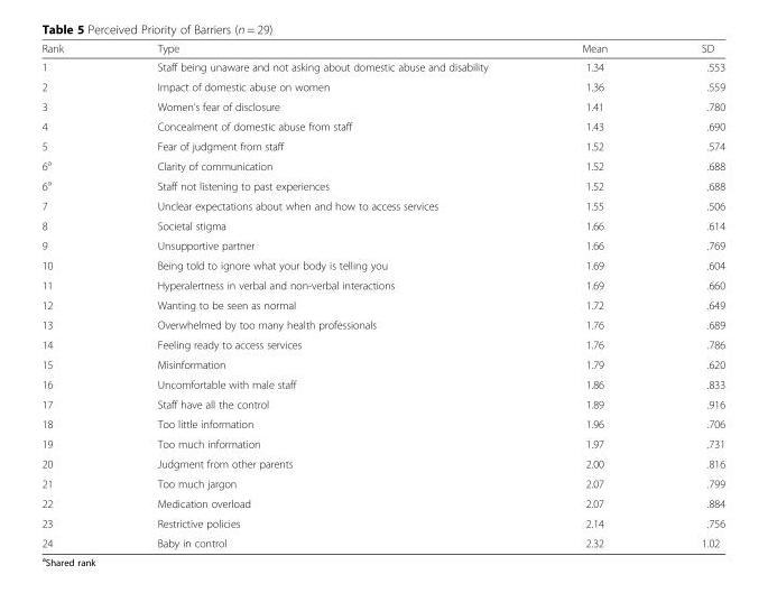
<table><thead><tr><td>Rank</td><td>Type</td><td>Mean</td><td>SD</td></tr></thead><tbody><tr><td>1</td><td>Staff being unaware and not asking about domestic abuse and disability</td><td>1.34</td><td>.553</td></tr><tr><td>2</td><td>Impact of domestic abuse on women</td><td>1.36</td><td>.559</td></tr><tr><td>3</td><td>Women’s fear of disclosure</td><td>1.41</td><td>.780</td></tr><tr><td>4</td><td>Concealment of domestic abuse from staff</td><td>1.43</td><td>.690</td></tr><tr><td>5</td><td>Fear of judgment from staff</td><td>1.52</td><td>.574</td></tr><tr><td>6<sup>a</sup></td><td>Clarity of communication</td><td>1.52</td><td>.688</td></tr><tr><td>6<sup>a</sup></td><td>Staff not listening to past experiences</td><td>1.52</td><td>.688</td></tr><tr><td>7</td><td>Unclear expectations about when and how to access services</td><td>1.55</td><td>.506</td></tr><tr><td>8</td><td>Societal stigma</td><td>1.66</td><td>.614</td></tr><tr><td>9</td><td>Unsupportive partner</td><td>1.66</td><td>.769</td></tr><tr><td>10</td><td>Being told to ignore what your body is telling you</td><td>1.69</td><td>.604</td></tr><tr><td>11</td><td>Hyperalertness in verbal and non-verbal interactions</td><td>1.69</td><td>.660</td></tr><tr><td>12</td><td>Wanting to be seen as normal</td><td>1.72</td><td>.649</td></tr><tr><td>13</td><td>Overwhelmed by too many health professionals</td><td>1.76</td><td>.689</td></tr><tr><td>14</td><td>Feeling ready to access services</td><td>1.76</td><td>.786</td></tr><tr><td>15</td><td>Misinformation</td><td>1.79</td><td>.620</td></tr><tr><td>16</td><td>Uncomfortable with male staff</td><td>1.86</td><td>.833</td></tr><tr><td>17</td><td>Staff have all the control</td><td>1.89</td><td>.916</td></tr><tr><td>18</td><td>Too little information</td><td>1.96</td><td>.706</td></tr><tr><td>19</td><td>Too much information</td><td>1.97</td><td>.731</td></tr><tr><td>20</td><td>Judgment from other parents</td><td>2.00</td><td>.816</td></tr><tr><td>21</td><td>Too much jargon</td><td>2.07</td><td>.799</td></tr><tr><td>22</td><td>Medication overload</td><td>2.07</td><td>.884</td></tr><tr><td>23</td><td>Restrictive policies</td><td>2.14</td><td>.756</td></tr><tr><td>24</td><td>Baby in control</td><td>2.32</td><td>1.02</td></tr></tbody></table>